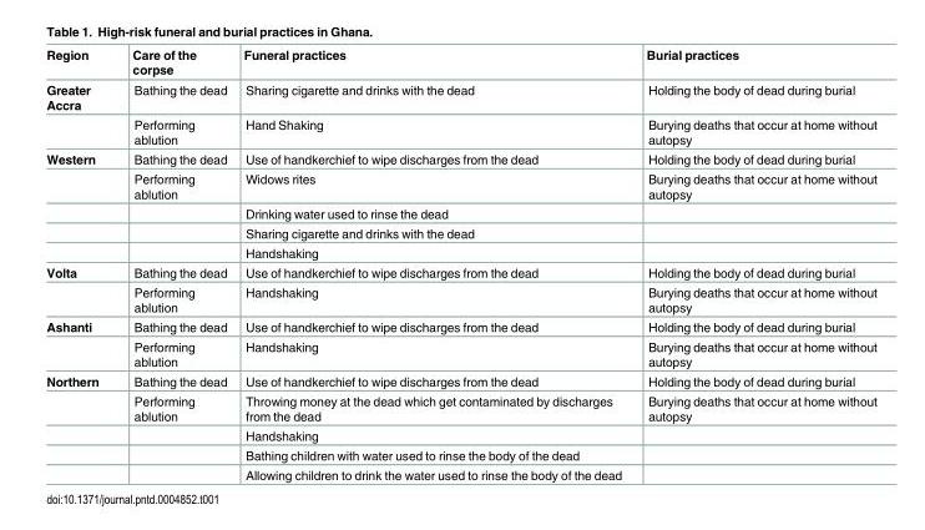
<table><thead><tr><td>Region</td><td>Care of the corpse</td><td>Funeral practices</td><td>Burial practices</td></tr></thead><tbody><tr><td rowspan="2">Greater Accra</td><td>Bathing the dead</td><td>Sharing cigarette and drinks with the dead</td><td>Holding the body of dead during burial</td></tr><tr><td>Performing ablution</td><td>Hand Shaking</td><td>Burying deaths that occur at home without autopsy</td></tr><tr><td rowspan="5">Western</td><td>Bathing the dead</td><td>Use of handkerchief to wipe discharges from the dead</td><td>Holding the body of dead during burial</td></tr><tr><td>Performing ablution</td><td>Widows rites</td><td>Burying deaths that occur at home without autopsy</td></tr><tr><td></td><td>Drinking water used to rinse the dead</td><td></td></tr><tr><td></td><td>Sharing cigarette and drinks with the dead</td><td></td></tr><tr><td></td><td>Handshaking</td><td></td></tr><tr><td rowspan="2">Volta</td><td>Bathing the dead</td><td>Use of handkerchief to wipe discharges from the dead</td><td>Holding the body of dead during burial</td></tr><tr><td>Performing ablution</td><td>Handshaking</td><td>Burying deaths that occur at home without autopsy</td></tr><tr><td rowspan="2">Ashanti</td><td>Bathing the dead</td><td>Use of handkerchief to wipe discharges from the dead</td><td>Holding the body of dead during burial</td></tr><tr><td>Performing ablution</td><td>Handshaking</td><td>Burying deaths that occur at home without autopsy</td></tr><tr><td rowspan="5">Northern</td><td>Bathing the dead</td><td>Use of handkerchief to wipe discharges from the dead</td><td>Holding the body of dead during burial</td></tr><tr><td>Performing ablution</td><td>Throwing money at the dead which get contaminated by discharges from the dead</td><td>Burying deaths that occur at home without autopsy</td></tr><tr><td></td><td>Handshaking</td><td></td></tr><tr><td></td><td>Bathing children with water used to rinse the body of the dead</td><td></td></tr><tr><td></td><td>Allowing children to drink the water used to rinse the body of the dead</td><td></td></tr></tbody></table>